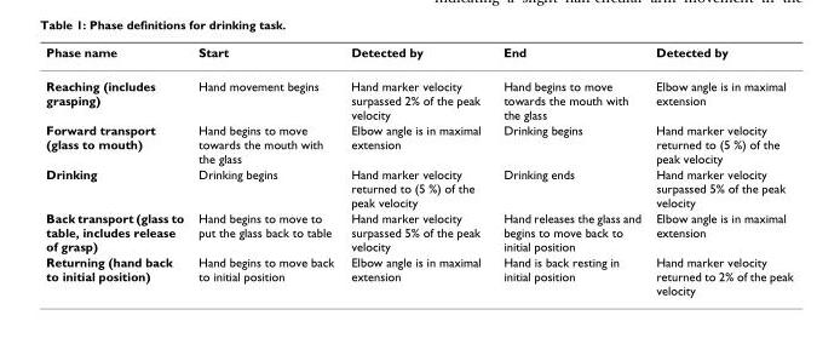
<table><thead><tr><td>Phase name</td><td>Start</td><td>Detected by</td><td>End</td><td>Detected by</td></tr></thead><tbody><tr><td>Reaching (includes grasping)</td><td>Hand movement begins</td><td>Hand marker velocity surpassed 2% of the peak velocity</td><td>Hand begins to move towards the mouth with the glass</td><td>Elbow angle is in maximal extension</td></tr><tr><td>Forward transport (glass to mouth)</td><td>Hand begins to move towards the mouth with the glass</td><td>Elbow angle is in maximal extension</td><td>Drinking begins</td><td>Hand marker velocity returned to (5 %) of the peak velocity</td></tr><tr><td>Drinking</td><td>Drinking begins</td><td>Hand marker velocity returned to (5 %) of the peak velocity</td><td>Drinking ends</td><td>Hand marker velocity surpassed 5% of the peak velocity</td></tr><tr><td>Back transport (glass to table, includes release of grasp)</td><td>Hand begins to move to put the glass back to table</td><td>Hand marker velocity surpassed 5% of the peak velocity</td><td>Hand releases the glass and begins to move back to initial position</td><td>Elbow angle is in maximal extension</td></tr><tr><td>Returning (hand back to initial position)</td><td>Hand begins to move back to initial position</td><td>Elbow angle is in maximal extension</td><td>Hand is back resting in initial position</td><td>Hand marker velocity returned to 2% of the peak velocity</td></tr></tbody></table>